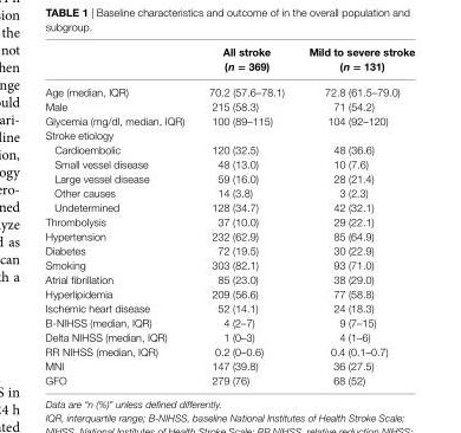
<table><thead><tr><td></td><td>all stroke (n = 369)</td><td>Mild to severe stroke (n = 131)</td></tr></thead><tbody><tr><td>Age (median, IQR)</td><td>70.2 (57.6–78.1)</td><td>72.8 (61.5–79.0)</td></tr><tr><td>Male</td><td>215 (58.3)</td><td>71 (54.2)</td></tr><tr><td>Glycemia (mg/dl, median, IQR)</td><td>100 (89–115)</td><td>104 (92–120)</td></tr><tr><td colspan="3">Stroke etiology</td></tr><tr><td>Cardioembolic</td><td>120 (32.5)</td><td>48 (36.6)</td></tr><tr><td>Small vessel disease</td><td>48 (13.0)</td><td>10 (7.6)</td></tr><tr><td>Large vessel disease</td><td>59 (16.0)</td><td>28 (21.4)</td></tr><tr><td>Other causes</td><td>14 (3.8)</td><td>3 (2.3)</td></tr><tr><td>Undetermined</td><td>128 (34.7)</td><td>42 (32.1)</td></tr><tr><td>Thrombolysis</td><td>37 (10.0)</td><td>29 (22.1)</td></tr><tr><td>Hypertension</td><td>232 (62.9)</td><td>85 (64.9)</td></tr><tr><td>Diabetes</td><td>72 (19.5)</td><td>30 (22.9)</td></tr><tr><td>Smoking</td><td>303 (82.1)</td><td>93 (71.0)</td></tr><tr><td>Atrial fibrillation</td><td>85 (23.0)</td><td>38 (29.0)</td></tr><tr><td>Hyperlipidemia</td><td>209 (56.6)</td><td>77 (58.8)</td></tr><tr><td>Ischemic heart disease</td><td>52 (14.1)</td><td>24 (18.3)</td></tr><tr><td>B-NIHSS (median, IQR)</td><td>4 (2–7)</td><td>9 (7–15)</td></tr><tr><td>Delta NIHSS (median, IQR)</td><td>1 (0–3)</td><td>4 (1–6)</td></tr><tr><td>RR NIHSS (median, IQR)</td><td>0.2 (0–0.6)</td><td>0.4 (0.1–0.7)</td></tr><tr><td>MNI</td><td>147 (39.8)</td><td>36 (27.5)</td></tr><tr><td>GFO</td><td>279 (76)</td><td>68 (52)</td></tr></tbody></table>